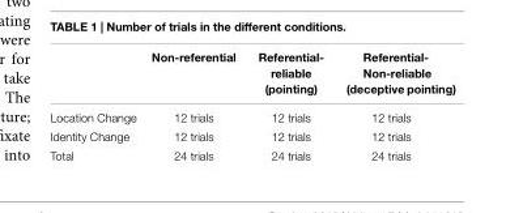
<table><thead><tr><td></td><td>Non-referential</td><td>Referential- reliable (pointing)</td><td>Referential- Non-reliable (deceptive pointing)</td></tr></thead><tbody><tr><td>Location Change</td><td>12 trials</td><td>12 trials</td><td>12 trials</td></tr><tr><td>Identity Change</td><td>12 trials</td><td>12 trials</td><td>12 trials</td></tr><tr><td>Total</td><td>24 trials</td><td>24 trials</td><td>24 trials</td></tr></tbody></table>